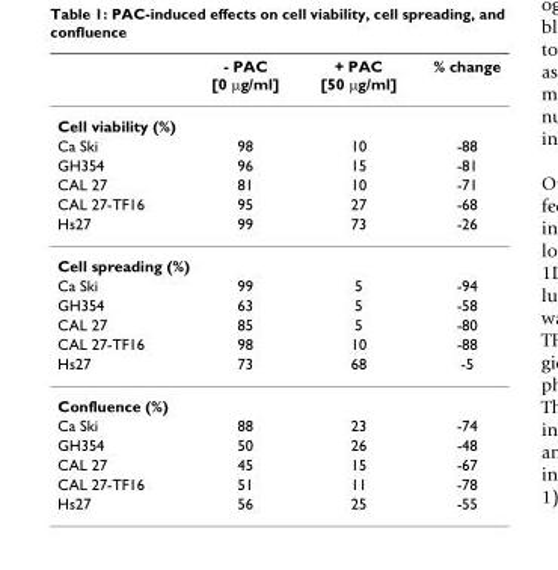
<table><thead><tr><td></td><td>- PAC [0 μg/ml]</td><td>+ PAC [50 μg/ml]</td><td>% change</td></tr></thead><tbody><tr><td colspan="4">Cell viability (%)</td></tr><tr><td>Ca Ski</td><td>98</td><td>10</td><td>-88</td></tr><tr><td>GH354</td><td>96</td><td>15</td><td>-81</td></tr><tr><td>CAL 27</td><td>81</td><td>10</td><td>-71</td></tr><tr><td>CAL 27-TF16</td><td>95</td><td>27</td><td>-68</td></tr><tr><td>Hs27</td><td>99</td><td>73</td><td>-26</td></tr><tr><td colspan="4">Cell spreading (%)</td></tr><tr><td>Ca Ski</td><td>99</td><td>5</td><td>-94</td></tr><tr><td>GH354</td><td>63</td><td>5</td><td>-58</td></tr><tr><td>CAL 27</td><td>85</td><td>5</td><td>-80</td></tr><tr><td>CAL 27-TF16</td><td>98</td><td>10</td><td>-88</td></tr><tr><td>Hs27</td><td>73</td><td>68</td><td>-5</td></tr><tr><td colspan="4">Confluence (%)</td></tr><tr><td>Ca Ski</td><td>88</td><td>23</td><td>-74</td></tr><tr><td>GH354</td><td>50</td><td>26</td><td>-48</td></tr><tr><td>CAL 27</td><td>45</td><td>15</td><td>-67</td></tr><tr><td>CAL 27-TF16</td><td>51</td><td>11</td><td>-78</td></tr><tr><td>Hs27</td><td>56</td><td>25</td><td>-55</td></tr></tbody></table>